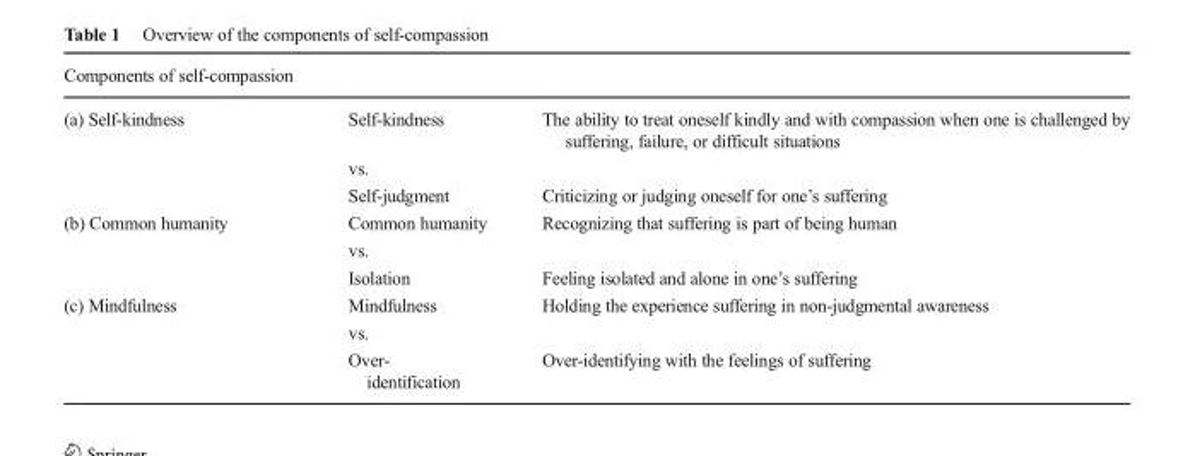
<table><thead><tr><td>Components of self-compassion</td><td></td><td></td></tr></thead><tbody><tr><td rowspan="3">(a) Self-kindness</td><td>Self-kindness</td><td>The ability to treat oneself kindly and with compassion when one is challenged by suffering, failure, or difficult situations</td></tr><tr><td>vs.</td><td></td></tr><tr><td>Self-judgment</td><td>Criticizing or judging oneself for one’s suffering</td></tr><tr><td rowspan="3">(b) Common humanity</td><td>Common humanity</td><td>Recognizing that suffering is part of being human</td></tr><tr><td>vs.</td><td></td></tr><tr><td>Isolation</td><td>Feeling isolated and alone in one’s suffering</td></tr><tr><td rowspan="3">(c) Mindfulness</td><td>Mindfulness</td><td>Holding the experience suffering in non-judgmental awareness</td></tr><tr><td>vs.</td><td></td></tr><tr><td>Over- identification</td><td>Over-identifying with the feelings of suffering</td></tr></tbody></table>